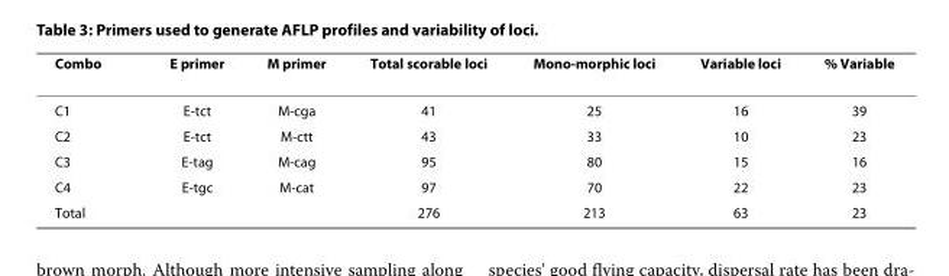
<table><thead><tr><td>Combo</td><td>E primer</td><td>M primer</td><td>Total scorable loci</td><td>Mono-morphic loci</td><td>Variable loci</td><td>% Variable</td></tr></thead><tbody><tr><td>C1</td><td>E-tct</td><td>M-cga</td><td>41</td><td>25</td><td>16</td><td>39</td></tr><tr><td>C2</td><td>E-tct</td><td>M-ctt</td><td>43</td><td>33</td><td>10</td><td>23</td></tr><tr><td>C3</td><td>E-tag</td><td>M-cag</td><td>95</td><td>80</td><td>15</td><td>16</td></tr><tr><td>C4</td><td>E-tgc</td><td>M-cat</td><td>97</td><td>70</td><td>22</td><td>23</td></tr><tr><td>Total</td><td></td><td></td><td>276</td><td>213</td><td>63</td><td>23</td></tr></tbody></table>